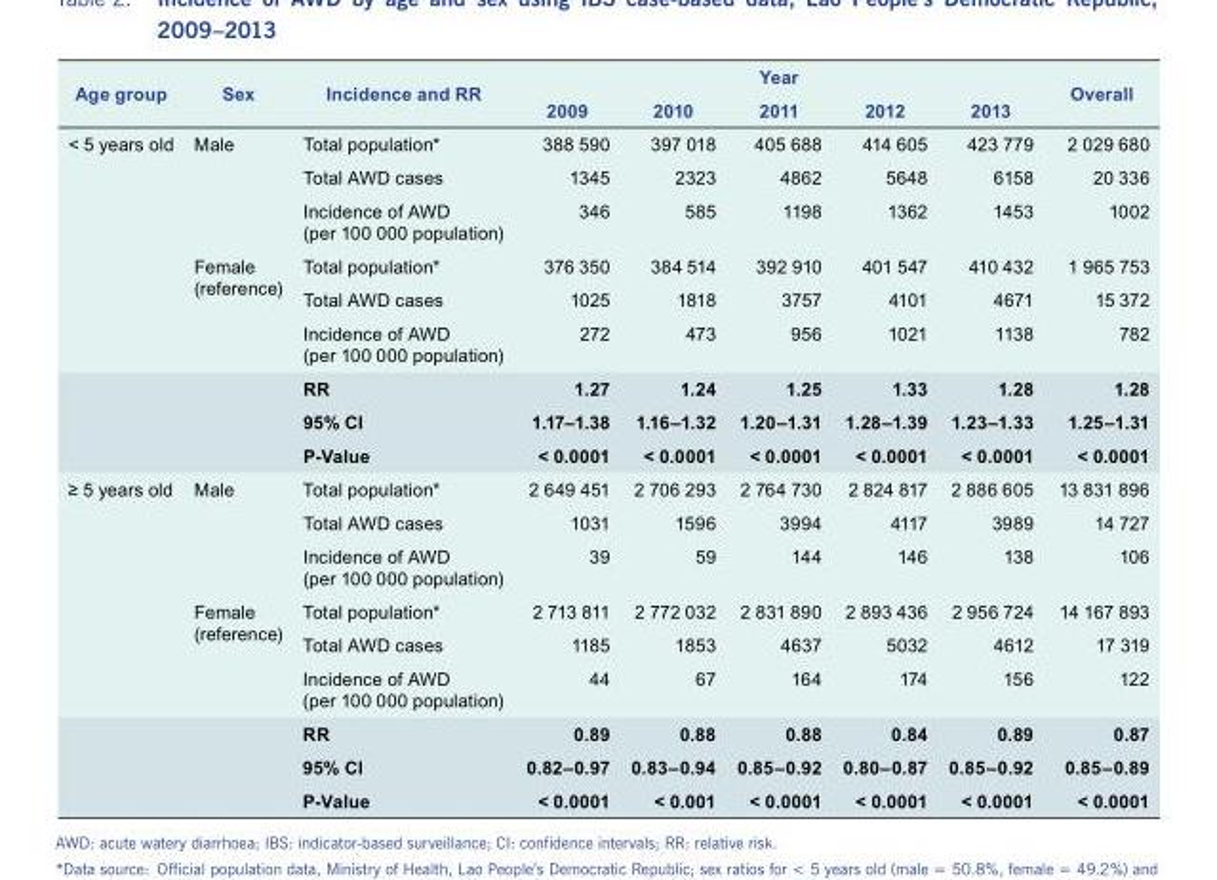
<table><thead><tr><td rowspan="2">Age group</td><td rowspan="2">Sex</td><td rowspan="2">Incidence and RR</td><td rowspan="2">2009</td><td rowspan="2">2010</td><td rowspan="2">Year 2011</td><td rowspan="2">2012</td><td rowspan="2">2013</td><td rowspan="2">Overall</td></tr><tr></tr></thead><tbody><tr><td rowspan="9">&lt; 5 years old</td><td rowspan="3">Male</td><td>Total population*</td><td>388 590</td><td>397 018</td><td>405 688</td><td>414 605</td><td>423 779</td><td>2 029 680</td></tr><tr><td>Total AWD cases</td><td>1345</td><td>2323</td><td>4862</td><td>5648</td><td>6158</td><td>20 336</td></tr><tr><td>Incidence of AWD (per 100 000 population)</td><td>346</td><td>585</td><td>1198</td><td>1362</td><td>1453</td><td>1002</td></tr><tr><td rowspan="3">Female (reference)</td><td>Total population*</td><td>376 350</td><td>384 514</td><td>392 910</td><td>401 547</td><td>410 432</td><td>1 965 753</td></tr><tr><td>Total AWD cases</td><td>1025</td><td>1818</td><td>3757</td><td>4101</td><td>4671</td><td>15 372</td></tr><tr><td>Incidence of AWD (per 100 000 population)</td><td>272</td><td>473</td><td>956</td><td>1021</td><td>1138</td><td>782</td></tr><tr><td rowspan="3"></td><td>RR</td><td>1.27</td><td>1.24</td><td>1.25</td><td>1.33</td><td>1.28</td><td>1.28</td></tr><tr><td>95% CI</td><td>1.17–1.38</td><td>1.16–1.32</td><td>1.20–1.31</td><td>1.28–1.39</td><td>1.23–1.33</td><td>1.25–1.31</td></tr><tr><td>P-Value</td><td>&lt; 0.0001</td><td>&lt; 0.0001</td><td>&lt; 0.0001</td><td>&lt; 0.0001</td><td>&lt; 0.0001</td><td>&lt; 0.0001</td></tr><tr><td rowspan="9">≥ 5 years old</td><td rowspan="3">Male</td><td>Total population*</td><td>2 649 451</td><td>2 706 293</td><td>2 764 730</td><td>2 824 817</td><td>2 886 605</td><td>13 831 896</td></tr><tr><td>Total AWD cases</td><td>1031</td><td>1596</td><td>3994</td><td>4117</td><td>3989</td><td>14 727</td></tr><tr><td>Incidence of AWD (per 100 000 population)</td><td>39</td><td>59</td><td>144</td><td>146</td><td>138</td><td>106</td></tr><tr><td rowspan="3">Female (reference)</td><td>Total population*</td><td>2 713 811</td><td>2 772 032</td><td>2 831 890</td><td>2 893 436</td><td>2 956 724</td><td>14 167 893</td></tr><tr><td>Total AWD cases</td><td>1185</td><td>1853</td><td>4637</td><td>5032</td><td>4612</td><td>17 319</td></tr><tr><td>Incidence of AWD (per 100 000 population)</td><td>44</td><td>67</td><td>164</td><td>174</td><td>156</td><td>122</td></tr><tr><td rowspan="3"></td><td>RR</td><td>0.89</td><td>0.88</td><td>0.88</td><td>0.84</td><td>0.89</td><td>0.87</td></tr><tr><td>95% CI</td><td>0.82–0.97</td><td>0.83–0.94</td><td>0.85–0.92</td><td>0.80–0.87</td><td>0.85–0.92</td><td>0.85–0.89</td></tr><tr><td>P-Value</td><td>&lt; 0.0001</td><td>&lt; 0.001</td><td>&lt; 0.0001</td><td>&lt; 0.0001</td><td>&lt; 0.0001</td><td>&lt; 0.0001</td></tr></tbody></table>